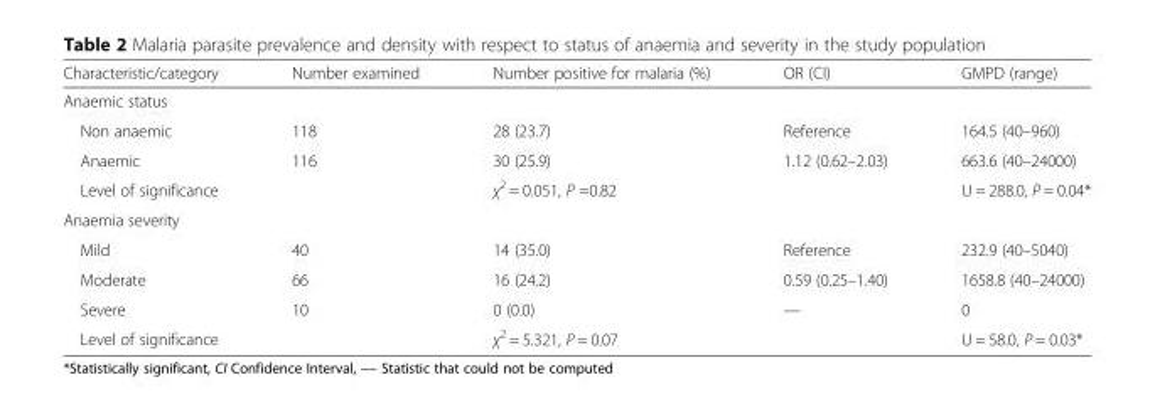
<table><thead><tr><td>Characteristic/category</td><td>Number examined</td><td>Number positive for malaria (%)</td><td>OR (CI)</td><td>GMPD (range)</td></tr></thead><tbody><tr><td colspan="5">Anaemic status</td></tr><tr><td>Non anaemic</td><td>118</td><td>28 (23.7)</td><td>Reference</td><td>164.5 (40–960)</td></tr><tr><td>Anaemic</td><td>116</td><td>30 (25.9)</td><td>1.12 (0.62–2.03)</td><td>663.6 (40–24000)</td></tr><tr><td>Level of significance</td><td></td><td>χ<sup>2</sup> = 0.051, P =0.82</td><td></td><td>U = 288.0, P = 0.04*</td></tr><tr><td colspan="5">Anaemia severity</td></tr><tr><td>Mild</td><td>40</td><td>14 (35.0)</td><td>Reference</td><td>232.9 (40–5040)</td></tr><tr><td>Moderate</td><td>66</td><td>16 (24.2)</td><td>0.59 (0.25–1.40)</td><td>1658.8 (40–24000)</td></tr><tr><td>Severe</td><td>10</td><td>0 (0.0)</td><td>—</td><td>0</td></tr><tr><td>Level of significance</td><td></td><td>χ<sup>2</sup> = 5.321, P = 0.07</td><td></td><td>U = 58.0, P = 0.03*</td></tr></tbody></table>